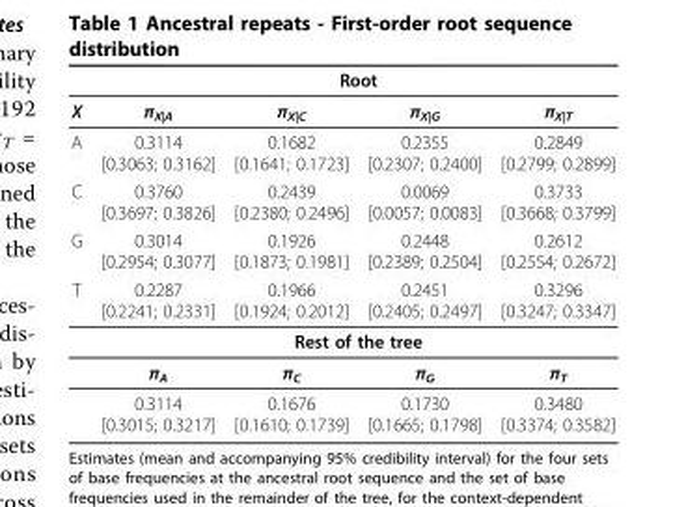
<table><thead><tr><td rowspan="2">X</td><td colspan="4">Root</td></tr><tr><td>π<sub>X|A</sub></td><td>π<sub>X|C</sub></td><td>π<sub>X|G</sub></td><td>π<sub>X|T</sub></td></tr></thead><tbody><tr><td>A</td><td>0.3114 [0.3063; 0.3162]</td><td>0.1682 [0.1641; 0.1723]</td><td>0.2355 [0.2307; 0.2400]</td><td>0.2849 [0.2799; 0.2899]</td></tr><tr><td>C</td><td>0.3760 [0.3697; 0.3826]</td><td>0.2439 [0.2380; 0.2496]</td><td>0.0069 [0.0057; 0.0083]</td><td>0.3733 [0.3668; 0.3799]</td></tr><tr><td>G</td><td>0.3014 [0.2954; 0.3077]</td><td>0.1926 [0.1873; 0.1981]</td><td>0.2448 [0.2389; 0.2504]</td><td>0.2612 [0.2554; 0.2672]</td></tr><tr><td rowspan="4">T</td><td>0.2287 [0.2241; 0.2331]</td><td>0.1966 [0.1924; 0.2012]</td><td>0.2451 [0.2405; 0.2497]</td><td>0.3296 [0.3247; 0.3347]</td></tr><tr><td colspan="4">Rest of the tree</td></tr><tr><td>π<sub>A</sub></td><td>π<sub>C</sub></td><td>π<sub>G</sub></td><td>π<sub>T</sub></td></tr><tr><td>0.3114 [0.3015; 0.3217]</td><td>0.1676 [0.1610; 0.1739]</td><td>0.1730 [0.1665; 0.1798]</td><td>0.3480 [0.3374; 0.3582]</td></tr></tbody></table>